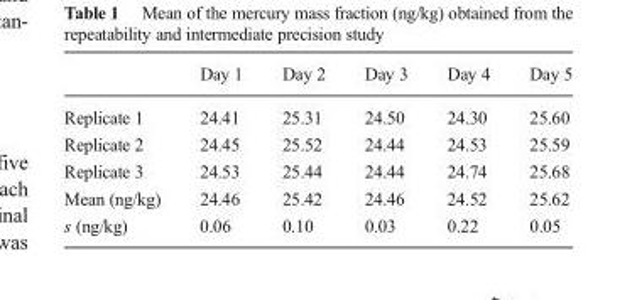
<table><thead><tr><td></td><td>Day 1</td><td>Day 2</td><td>Day 3</td><td>Day 4</td><td>Day 5</td></tr></thead><tbody><tr><td>Replicate 1</td><td>24.41</td><td>25.31</td><td>24.50</td><td>24.30</td><td>25.60</td></tr><tr><td>Replicate 2</td><td>24.45</td><td>25.52</td><td>24.44</td><td>24.53</td><td>25.59</td></tr><tr><td>Replicate 3</td><td>24.53</td><td>25.44</td><td>24.44</td><td>24.74</td><td>25.68</td></tr><tr><td>Mean (ng/kg)</td><td>24.46</td><td>25.42</td><td>24.46</td><td>24.52</td><td>25.62</td></tr><tr><td>s (ng/kg)</td><td>0.06</td><td>0.10</td><td>0.03</td><td>0.22</td><td>0.05</td></tr></tbody></table>